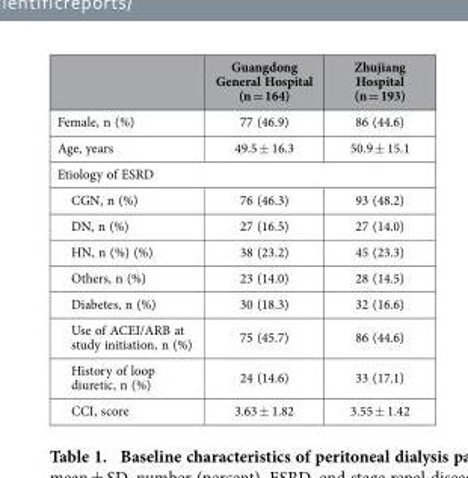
<table><thead><tr><td></td><td>Guangdong General Hospital (n = 164)</td><td>Zhujiang Hospital (n = 193)</td></tr></thead><tbody><tr><td>Female, n (%)</td><td>77 (46.9)</td><td>86 (44.6)</td></tr><tr><td>Age, years</td><td>49.5 ± 16.3</td><td>50.9 ± 15.1</td></tr><tr><td colspan="3">Etiology of ESRD</td></tr><tr><td>CGN, n (%)</td><td>76 (46.3)</td><td>93 (48.2)</td></tr><tr><td>DN, n (%)</td><td>27 (16.5)</td><td>27 (14.0)</td></tr><tr><td>HN, n (%) (%)</td><td>38 (23.2)</td><td>45 (23.3)</td></tr><tr><td>Others, n (%)</td><td>23 (14.0)</td><td>28 (14.5)</td></tr><tr><td>Diabetes, n (%)</td><td>30 (18.3)</td><td>32 (16.6)</td></tr><tr><td>Use of ACEI/ARB at study initiation, n (%)</td><td>75 (45.7)</td><td>86 (44.6)</td></tr><tr><td>History of loop diuretic, n (%)</td><td>24 (14.6)</td><td>33 (17.1)</td></tr><tr><td>CCI, score</td><td>3.63 ± 1.82</td><td>3.55 ± 1.42</td></tr></tbody></table>